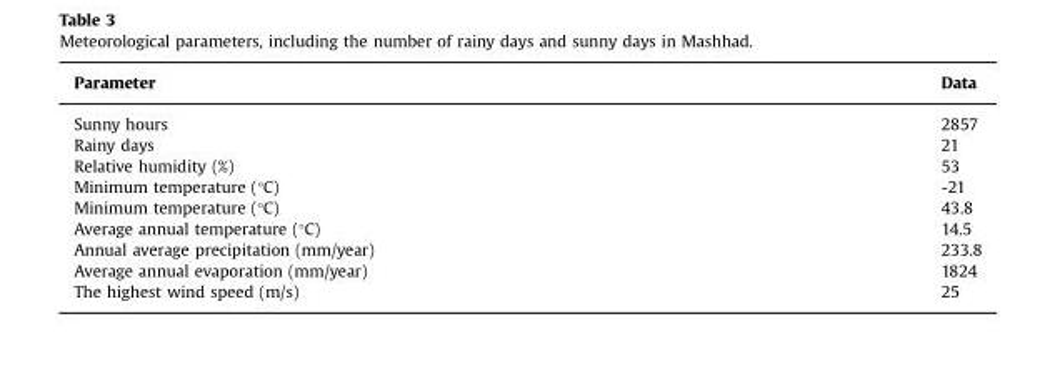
<table><thead><tr><td>Parameter</td><td>Data</td></tr></thead><tbody><tr><td>Sunny hours</td><td>2857</td></tr><tr><td>Rainy days</td><td>21</td></tr><tr><td>Relative humidity (%)</td><td>53</td></tr><tr><td>Minimum temperature (°C)</td><td>-21</td></tr><tr><td>Minimum temperature (°C)</td><td>43.8</td></tr><tr><td>Average annual temperature (°C)</td><td>14.5</td></tr><tr><td>Annual average precipitation (mm/year)</td><td>233.8</td></tr><tr><td>Average annual evaporation (mm/year)</td><td>1824</td></tr><tr><td>The highest wind speed (m/s)</td><td>25</td></tr></tbody></table>